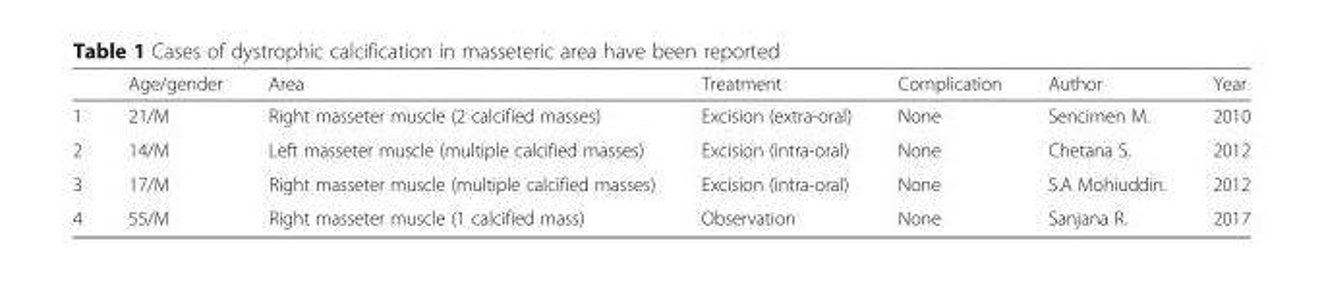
<table><thead><tr><td></td><td>Age/gender</td><td>Area</td><td>Treatment</td><td>Complication</td><td>Author</td><td>Year</td></tr></thead><tbody><tr><td>1</td><td>21/M</td><td>Right masseter muscle (2 calcified masses)</td><td>Excision (extra-oral)</td><td>None</td><td>Sencimen M.</td><td>2010</td></tr><tr><td>2</td><td>14/M</td><td>Left masseter muscle (multiple calcified masses)</td><td>Excision (intra-oral)</td><td>None</td><td>Chetana S.</td><td>2012</td></tr><tr><td>3</td><td>17/M</td><td>Right masseter muscle (multiple calcified masses)</td><td>Excision (intra-oral)</td><td>None</td><td>S.A Mohiuddin.</td><td>2012</td></tr><tr><td>4</td><td>55/M</td><td>Right masseter muscle (1 calcified mass)</td><td>Observation</td><td>None</td><td>Sanjana R.</td><td>2017</td></tr></tbody></table>